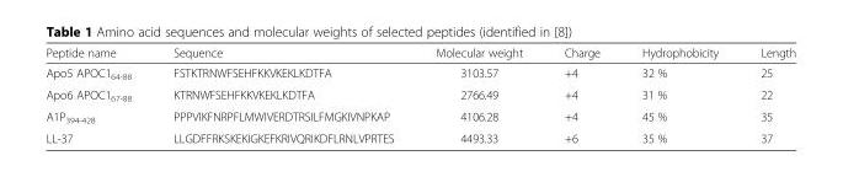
<table><thead><tr><td>Peptide name</td><td>Sequence</td><td>Molecular weight</td><td>Charge</td><td>Hydrophobicity</td><td>Length</td></tr></thead><tbody><tr><td>Apo5 APOC1<sub>64-88</sub></td><td>FSTKTRNWFSEHFKKVKEKLKDTFA</td><td>3103.57</td><td>+4</td><td>32 %</td><td>25</td></tr><tr><td>Apo6 APOC1<sub>67-88</sub></td><td>KTRNWFSEHFKKVKEKLKDTFA</td><td>2766.49</td><td>+4</td><td>31 %</td><td>22</td></tr><tr><td>A1P<sub>394-428</sub></td><td>PPPVIKFNRPFLMWIVERDTRSILFMGKIVNPKAP</td><td>4106.28</td><td>+4</td><td>45 %</td><td>35</td></tr><tr><td>LL-37</td><td>LLGDFFRKSKEKIGKEFKRIVQRIKDFLRNLVPRTES</td><td>4493.33</td><td>+6</td><td>35 %</td><td>37</td></tr></tbody></table>